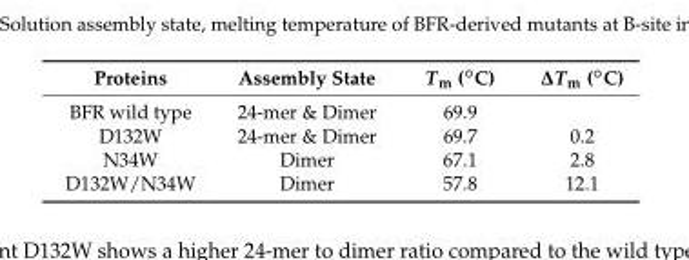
<table><thead><tr><td>Proteins</td><td>Assembly State</td><td>Tm (◦C)</td><td>∆Tm (◦C)</td></tr></thead><tbody><tr><td>BFR wild type</td><td>24-mer &amp; Dimer</td><td>69.9</td><td></td></tr><tr><td>D132W</td><td>24-mer &amp; Dimer</td><td>69.7</td><td>0.2</td></tr><tr><td>N34W</td><td>Dimer</td><td>67.1</td><td>2.8</td></tr><tr><td>D132W/N34W</td><td>Dimer</td><td>57.8</td><td>12.1</td></tr></tbody></table>